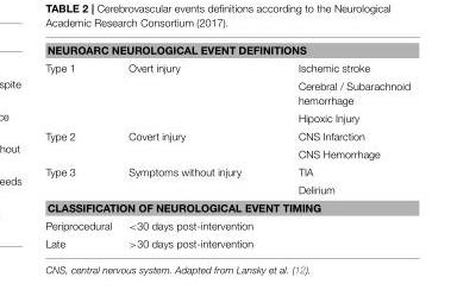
<table><tbody><tr><td colspan="3">NEUROARC NEUROLOGICAL EVENT DEFINITIONS</td></tr><tr><td rowspan="3">Type 1</td><td>Overt injury</td><td>Ischemic stroke</td></tr><tr><td></td><td>Cerebral / Subarachnoid hemorrhage</td></tr><tr><td></td><td>Hipoxic Injury</td></tr><tr><td rowspan="2">Type 2</td><td>Covert injury</td><td>CNS Infarction</td></tr><tr><td></td><td>CNS Hemorrhage</td></tr><tr><td rowspan="2">Type 3</td><td>Symptoms without injury</td><td>TIA</td></tr><tr><td></td><td>Delirium</td></tr><tr><td colspan="3">CLASSIFICATION OF NEUROLOGICAL EVENT TIMING</td></tr><tr><td>Periprocedural</td><td>&lt;30 days post-intervention</td><td></td></tr><tr><td>Late</td><td>&gt;30 days post-intervention</td><td></td></tr></tbody></table>